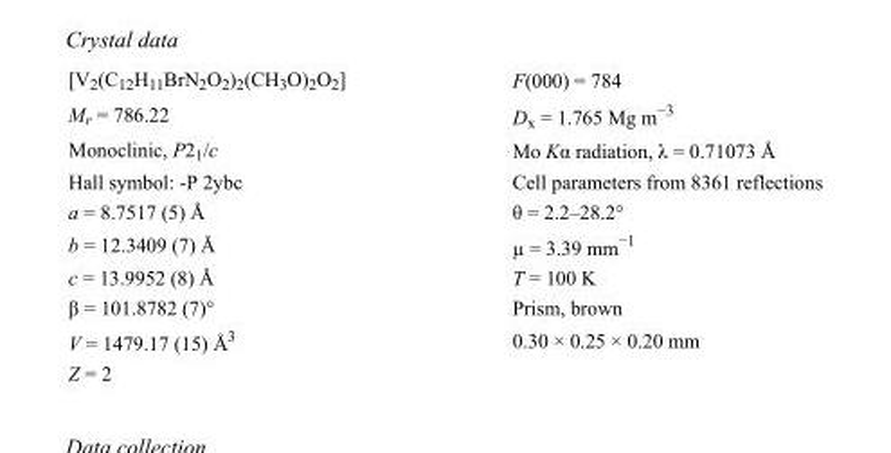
<table><tbody><tr><td>[V<sub>2</sub>(C<sub>12</sub>H<sub>11</sub>BrN<sub>2</sub>O<sub>2</sub>)<sub>2</sub>(CH<sub>3</sub>O)<sub>2</sub>O<sub>2</sub>]</td><td>F(000) = 784</td></tr><tr><td>M<sub>r</sub> = 786.22</td><td>D<sub>x</sub> = 1.765 Mg m<sup>−3</sup></td></tr><tr><td>Monoclinic, P2<sub>1</sub>/c</td><td>Mo Kα radiation, λ = 0.71073 Å</td></tr><tr><td>Hall symbol: -P 2ybc</td><td>Cell parameters from 8361 reflections</td></tr><tr><td>a = 8.7517 (5) Å</td><td>θ = 2.2–28.2°</td></tr><tr><td>b = 12.3409 (7) Å</td><td>µ = 3.39 mm<sup>−1</sup></td></tr><tr><td>c = 13.9952 (8) Å</td><td>T = 100 K</td></tr><tr><td>β = 101.8782 (7)°</td><td>Prism, brown</td></tr><tr><td>V = 1479.17 (15) Å<sup>3</sup></td><td>0.30 × 0.25 × 0.20 mm</td></tr><tr><td>Z = 2</td><td></td></tr></tbody></table>